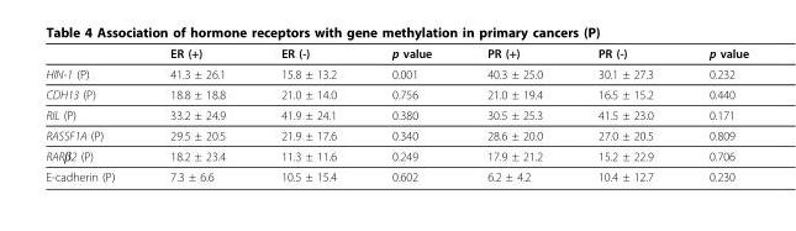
<table><thead><tr><td></td><td>ER (+)</td><td>ER (-)</td><td>p value</td><td>PR (+)</td><td>PR (-)</td><td>p value</td></tr></thead><tbody><tr><td>HIN-1 (P)</td><td>41.3 ± 26.1</td><td>15.8 ± 13.2</td><td>0.001</td><td>40.3 ± 25.0</td><td>30.1 ± 27.3</td><td>0.232</td></tr><tr><td>CDH13 (P)</td><td>18.8 ± 18.8</td><td>21.0 ± 14.0</td><td>0.756</td><td>21.0 ± 19.4</td><td>16.5 ± 15.2</td><td>0.440</td></tr><tr><td>RIL (P)</td><td>33.2 ± 24.9</td><td>41.9 ± 24.1</td><td>0.380</td><td>30.5 ± 25.3</td><td>41.5 ± 23.0</td><td>0.171</td></tr><tr><td>RASSF1A (P)</td><td>29.5 ± 20.5</td><td>21.9 ± 17.6</td><td>0.340</td><td>28.6 ± 20.0</td><td>27.0 ± 20.5</td><td>0.809</td></tr><tr><td>RARβ2 (P)</td><td>18.2 ± 23.4</td><td>11.3 ± 11.6</td><td>0.249</td><td>17.9 ± 21.2</td><td>15.2 ± 22.9</td><td>0.706</td></tr><tr><td>E-cadherin (P)</td><td>7.3 ± 6.6</td><td>10.5 ± 15.4</td><td>0.602</td><td>6.2 ± 4.2</td><td>10.4 ± 12.7</td><td>0.230</td></tr></tbody></table>